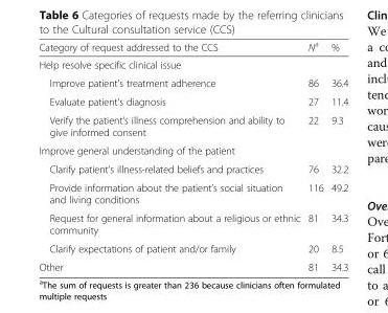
<table><thead><tr><td>Category of request addressed to the CCS</td><td>N<sup>a</sup></td><td>%</td></tr></thead><tbody><tr><td colspan="3">Help resolve specific clinical issue</td></tr><tr><td>Improve patient’s treatment adherence</td><td>86</td><td>36.4</td></tr><tr><td>Evaluate patient’s diagnosis</td><td>27</td><td>11.4</td></tr><tr><td>Verify the patient’s illness comprehension and ability to give informed consent</td><td>22</td><td>9.3</td></tr><tr><td colspan="3">Improve general understanding of the patient</td></tr><tr><td>Clarify patient’s illness-related beliefs and practices</td><td>76</td><td>32.2</td></tr><tr><td>Provide information about the patient’s social situation and living conditions</td><td>116</td><td>49.2</td></tr><tr><td>Request for general information about a religious or ethnic community</td><td>81</td><td>34.3</td></tr><tr><td>Clarify expectations of patient and/or family</td><td>20</td><td>8.5</td></tr><tr><td>Other</td><td>81</td><td>34.3</td></tr></tbody></table>